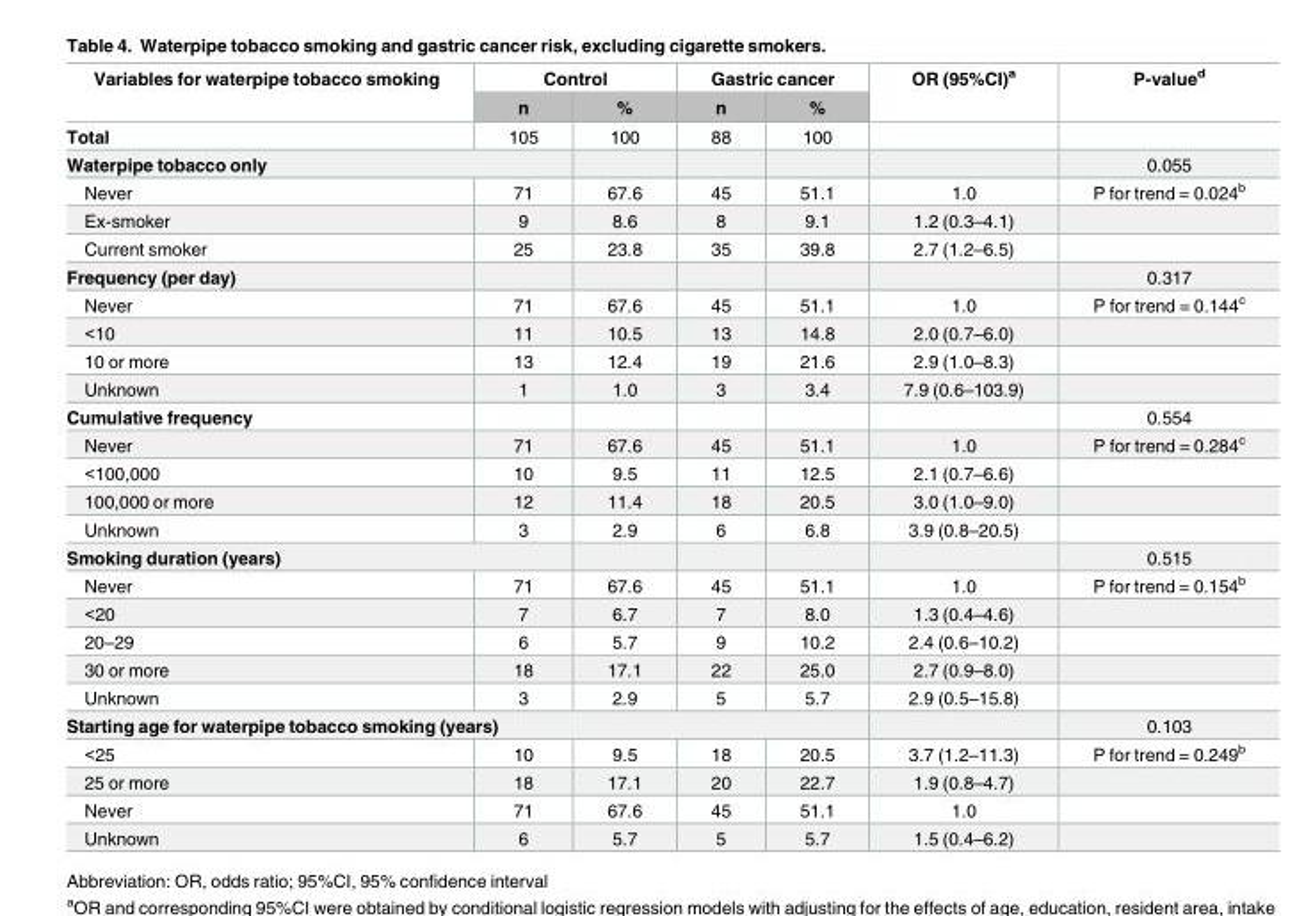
<table><thead><tr><td rowspan="2">Variables for waterpipe tobacco smoking</td><td colspan="2">Control</td><td colspan="2">Gastric cancer</td><td rowspan="2">OR (95%CI)<sup>a</sup></td><td rowspan="2">P-value<sup>d</sup></td></tr><tr><td>n</td><td>%</td><td>n</td><td>%</td></tr></thead><tbody><tr><td>Total</td><td>105</td><td>100</td><td>88</td><td>100</td><td></td><td></td></tr><tr><td colspan="2">Waterpipe tobacco only</td><td></td><td></td><td></td><td></td><td>0.055</td></tr><tr><td>Never</td><td>71</td><td>67.6</td><td>45</td><td>51.1</td><td>1.0</td><td>P for trend = 0.024<sup>b</sup></td></tr><tr><td>Ex-smoker</td><td>9</td><td>8.6</td><td>8</td><td>9.1</td><td>1.2 (0.3–4.1)</td><td></td></tr><tr><td>Current smoker</td><td>25</td><td>23.8</td><td>35</td><td>39.8</td><td>2.7 (1.2–6.5)</td><td></td></tr><tr><td>Frequency (per day)</td><td></td><td></td><td></td><td></td><td></td><td>0.317</td></tr><tr><td>Never</td><td>71</td><td>67.6</td><td>45</td><td>51.1</td><td>1.0</td><td>P for trend = 0.144<sup>c</sup></td></tr><tr><td>&lt;10</td><td>11</td><td>10.5</td><td>13</td><td>14.8</td><td>2.0 (0.7–6.0)</td><td></td></tr><tr><td>10 or more</td><td>13</td><td>12.4</td><td>19</td><td>21.6</td><td>2.9 (1.0–8.3)</td><td></td></tr><tr><td>Unknown</td><td>1</td><td>1.0</td><td>3</td><td>3.4</td><td>7.9 (0.6–103.9)</td><td></td></tr><tr><td>Cumulative frequency</td><td></td><td></td><td></td><td></td><td></td><td>0.554</td></tr><tr><td>Never</td><td>71</td><td>67.6</td><td>45</td><td>51.1</td><td>1.0</td><td>P for trend = 0.284<sup>c</sup></td></tr><tr><td>&lt;100,000</td><td>10</td><td>9.5</td><td>11</td><td>12.5</td><td>2.1 (0.7–6.6)</td><td></td></tr><tr><td>100,000 or more</td><td>12</td><td>11.4</td><td>18</td><td>20.5</td><td>3.0 (1.0–9.0)</td><td></td></tr><tr><td>Unknown</td><td>3</td><td>2.9</td><td>6</td><td>6.8</td><td>3.9 (0.8–20.5)</td><td></td></tr><tr><td colspan="2">Smoking duration (years)</td><td></td><td></td><td></td><td></td><td>0.515</td></tr><tr><td>Never</td><td>71</td><td>67.6</td><td>45</td><td>51.1</td><td>1.0</td><td>P for trend = 0.154<sup>b</sup></td></tr><tr><td>&lt;20</td><td>7</td><td>6.7</td><td>7</td><td>8.0</td><td>1.3 (0.4–4.6)</td><td></td></tr><tr><td>20–29</td><td>6</td><td>5.7</td><td>9</td><td>10.2</td><td>2.4 (0.6–10.2)</td><td></td></tr><tr><td>30 or more</td><td>18</td><td>17.1</td><td>22</td><td>25.0</td><td>2.7 (0.9–8.0)</td><td></td></tr><tr><td>Unknown</td><td>3</td><td>2.9</td><td>5</td><td>5.7</td><td>2.9 (0.5–15.8)</td><td></td></tr><tr><td colspan="5">Starting age for waterpipe tobacco smoking (years)</td><td></td><td>0.103</td></tr><tr><td>&lt;25</td><td>10</td><td>9.5</td><td>18</td><td>20.5</td><td>3.7 (1.2–11.3)</td><td>P for trend = 0.249<sup>b</sup></td></tr><tr><td>25 or more</td><td>18</td><td>17.1</td><td>20</td><td>22.7</td><td>1.9 (0.8–4.7)</td><td></td></tr><tr><td>Never</td><td>71</td><td>67.6</td><td>45</td><td>51.1</td><td>1.0</td><td></td></tr><tr><td>Unknown</td><td>6</td><td>5.7</td><td>5</td><td>5.7</td><td>1.5 (0.4–6.2)</td><td></td></tr></tbody></table>